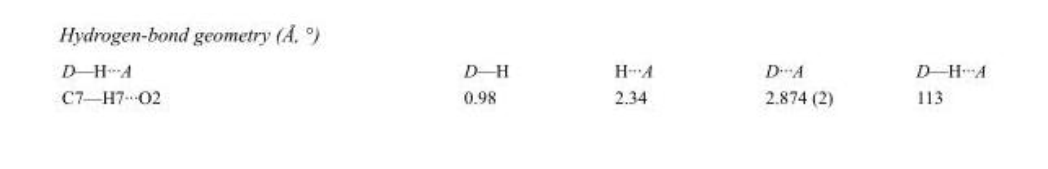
<table><tbody><tr><td>D—H···A</td><td>D—H</td><td>H···A</td><td>D···A</td><td>D—H···A</td></tr><tr><td>C7—H7···O2</td><td>0.98</td><td>2.34</td><td>2.874 (2)</td><td>113</td></tr></tbody></table>